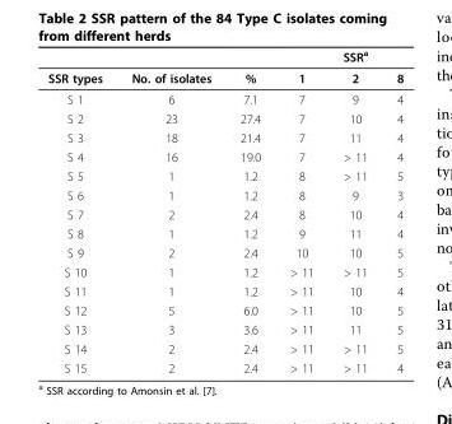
<table><thead><tr><td></td><td></td><td></td><td></td><td>SSR<sup>a</sup></td><td></td></tr></thead><tbody><tr><td>SSR types</td><td>No. of isolates</td><td>%</td><td>1</td><td>2</td><td>8</td></tr><tr><td>S 1</td><td>6</td><td>7.1</td><td>7</td><td>9</td><td>4</td></tr><tr><td>S 2</td><td>23</td><td>27.4</td><td>7</td><td>10</td><td>4</td></tr><tr><td>S 3</td><td>18</td><td>21.4</td><td>7</td><td>11</td><td>4</td></tr><tr><td>S 4</td><td>16</td><td>19.0</td><td>7</td><td>&gt; 11</td><td>4</td></tr><tr><td>S 5</td><td>1</td><td>1.2</td><td>8</td><td>&gt; 11</td><td>5</td></tr><tr><td>S 6</td><td>1</td><td>1.2</td><td>8</td><td>9</td><td>3</td></tr><tr><td>S 7</td><td>2</td><td>2.4</td><td>8</td><td>10</td><td>4</td></tr><tr><td>S 8</td><td>1</td><td>1.2</td><td>9</td><td>11</td><td>4</td></tr><tr><td>S 9</td><td>2</td><td>2.4</td><td>10</td><td>10</td><td>5</td></tr><tr><td>S 10</td><td>1</td><td>1.2</td><td>&gt; 11</td><td>&gt; 11</td><td>5</td></tr><tr><td>S 11</td><td>1</td><td>1.2</td><td>&gt; 11</td><td>10</td><td>4</td></tr><tr><td>S 12</td><td>5</td><td>6.0</td><td>&gt; 11</td><td>10</td><td>5</td></tr><tr><td>S 13</td><td>3</td><td>3.6</td><td>&gt; 11</td><td>11</td><td>5</td></tr><tr><td>S 14</td><td>2</td><td>2.4</td><td>&gt; 11</td><td>&gt; 11</td><td>5</td></tr><tr><td>S 15</td><td>2</td><td>2.4</td><td>&gt; 11</td><td>&gt; 11</td><td>4</td></tr></tbody></table>